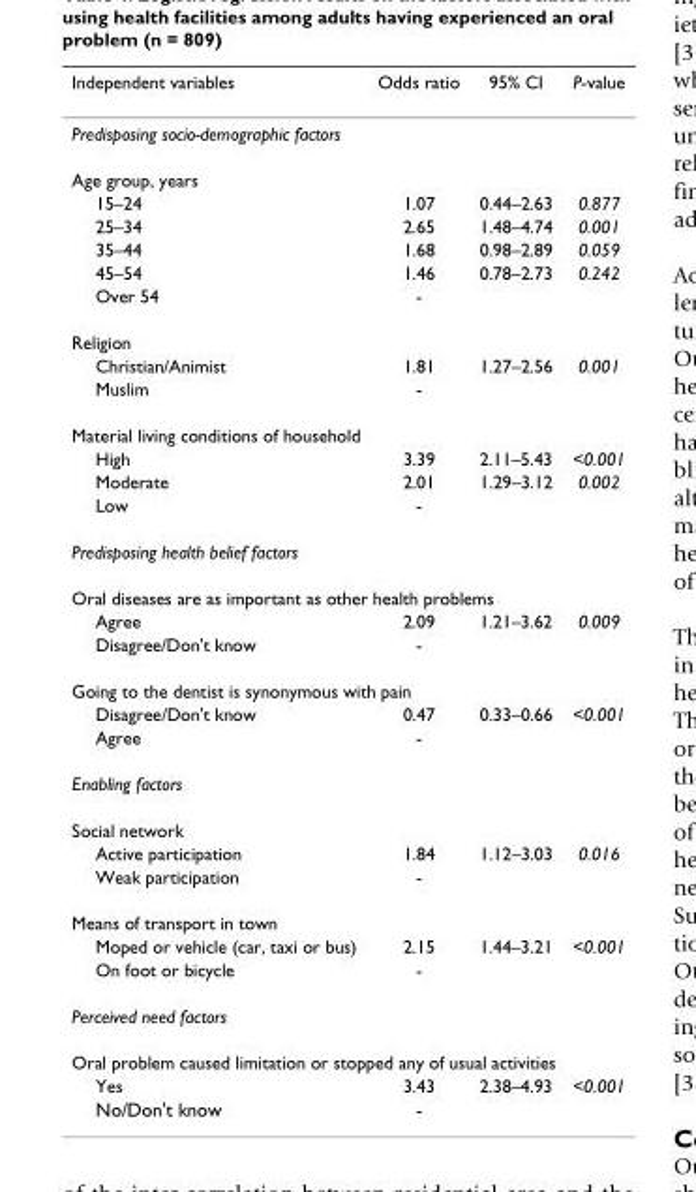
<table><thead><tr><td>Independent variables</td><td>Odds ratio</td><td>95% CI</td><td>P-value</td></tr></thead><tbody><tr><td colspan="4">Predisposing socio-demographic factors</td></tr><tr><td colspan="4">Age group, years</td></tr><tr><td>15–24</td><td>1.07</td><td>0.44–2.63</td><td>0.877</td></tr><tr><td>25–34</td><td>2.65</td><td>1.48–4.74</td><td>0.001</td></tr><tr><td>35–44</td><td>1.68</td><td>0.98–2.89</td><td>0.059</td></tr><tr><td>45–54</td><td>1.46</td><td>0.78–2.73</td><td>0.242</td></tr><tr><td>Over 54</td><td>-</td><td></td><td></td></tr><tr><td colspan="4">Religion</td></tr><tr><td>Christian/Animist</td><td>1.81</td><td>1.27–2.56</td><td>0.001</td></tr><tr><td>Muslim</td><td>-</td><td></td><td></td></tr><tr><td colspan="4">Material living conditions of household</td></tr><tr><td>High</td><td>3.39</td><td>2.11–5.43</td><td>&lt;0.001</td></tr><tr><td>Moderate</td><td>2.01</td><td>1.29–3.12</td><td>0.002</td></tr><tr><td>Low</td><td>-</td><td></td><td></td></tr><tr><td colspan="4">Predisposing health belief factors</td></tr><tr><td colspan="4">Oral diseases are as important as other health problems</td></tr><tr><td>Agree</td><td>2.09</td><td>1.21–3.62</td><td>0.009</td></tr><tr><td>Disagree/Don&#x27;t know</td><td>-</td><td></td><td></td></tr><tr><td colspan="4">Going to the dentist is synonymous with pain</td></tr><tr><td>Disagree/Don&#x27;t know</td><td>0.47</td><td>0.33–0.66</td><td>&lt;0.001</td></tr><tr><td>Agree</td><td>-</td><td></td><td></td></tr><tr><td colspan="4">Enabling factors</td></tr><tr><td colspan="4">Social network</td></tr><tr><td>Active participation</td><td>1.84</td><td>1.12–3.03</td><td>0.016</td></tr><tr><td>Weak participation</td><td>-</td><td></td><td></td></tr><tr><td colspan="4">Means of transport in town</td></tr><tr><td>Moped or vehicle (car, taxi or bus)</td><td>2.15</td><td>1.44–3.21</td><td>&lt;0.001</td></tr><tr><td>On foot or bicycle</td><td>-</td><td></td><td></td></tr><tr><td colspan="4">Perceived need factors</td></tr><tr><td colspan="4">Oral problem caused limitation or stopped any of usual activities</td></tr><tr><td>Yes</td><td>3.43</td><td>2.38–4.93</td><td>&lt;0.001</td></tr><tr><td>No/Don&#x27;t know</td><td>-</td><td></td><td></td></tr></tbody></table>